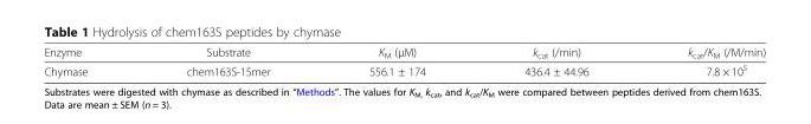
<table><thead><tr><td>Enzyme</td><td>Substrate</td><td>K<sub>M</sub> (μM)</td><td>k<sub>cat</sub> (/min)</td><td>k<sub>cat</sub>/K<sub>M</sub> (/M/min)</td></tr></thead><tbody><tr><td>Chymase</td><td>chem163S-15mer</td><td>556.1 ± 174</td><td>436.4 ± 44.96</td><td>7.8 × 10<sup>5</sup></td></tr></tbody></table>